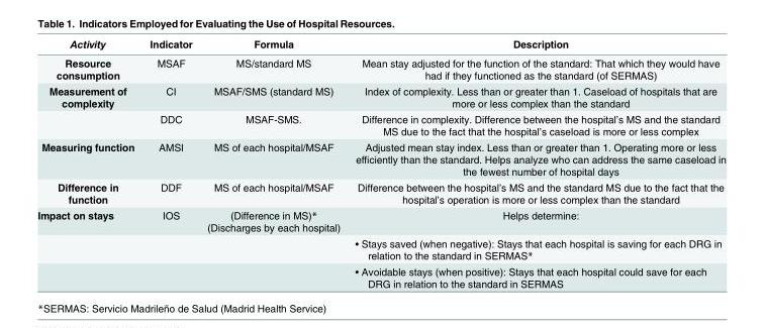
<table><thead><tr><td>Activity</td><td>Indicator</td><td>Formula</td><td>Description</td></tr></thead><tbody><tr><td>Resource consumption</td><td>MSAF</td><td>MS/standard MS</td><td>Mean stay adjusted for the function of the standard: That which they would have had if they functioned as the standard (of SERMAS)</td></tr><tr><td rowspan="2">Measurement of complexity</td><td>CI</td><td>MSAF/SMS (standard MS)</td><td>Index of complexity. Less than or greater than 1. Caseload of hospitals that are more or less complex than the standard</td></tr><tr><td>DDC</td><td>MSAF-SMS.</td><td>Difference in complexity. Difference between the hospital’s MS and the standard MS due to the fact that the hospital’s caseload is more or less complex</td></tr><tr><td>Measuring function</td><td>AMSI</td><td>MS of each hospital/MSAF</td><td>Adjusted mean stay index. Less than or greater than 1. Operating more or less efficiently than the standard. Helps analyze who can address the same caseload in the fewest number of hospital days</td></tr><tr><td>Difference in function</td><td>DDF</td><td>MS of each hospital/MSAF</td><td>Difference between the hospital’s MS and the standard MS due to the fact that the hospital’s operation is more or less complex than the standard</td></tr><tr><td rowspan="3">Impact on stays</td><td>IOS</td><td>(Difference in MS)* (Discharges by each hospital)</td><td>Helps determine:</td></tr><tr><td></td><td></td><td>• Stays saved (when negative): Stays that each hospital is saving for each DRG in relation to the standard in SERMAS*</td></tr><tr><td></td><td></td><td>• Avoidable stays (when positive): Stays that each hospital could save for each DRG in relation to the standard in SERMAS</td></tr></tbody></table>